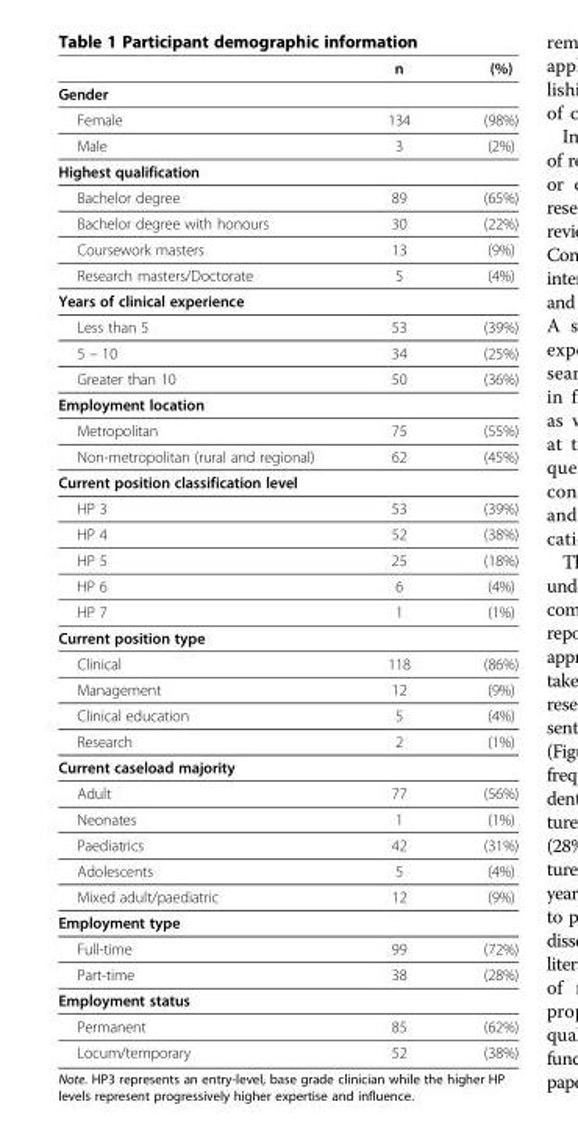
<table><thead><tr><td></td><td>n</td><td>(%)</td></tr></thead><tbody><tr><td colspan="3">Gender</td></tr><tr><td>Female</td><td>134</td><td>(98%)</td></tr><tr><td>Male</td><td>3</td><td>(2%)</td></tr><tr><td colspan="3">Highest qualification</td></tr><tr><td>Bachelor degree</td><td>89</td><td>(65%)</td></tr><tr><td>Bachelor degree with honours</td><td>30</td><td>(22%)</td></tr><tr><td>Coursework masters</td><td>13</td><td>(9%)</td></tr><tr><td>Research masters/Doctorate</td><td>5</td><td>(4%)</td></tr><tr><td colspan="3">Years of clinical experience</td></tr><tr><td>Less than 5</td><td>53</td><td>(39%)</td></tr><tr><td>5 – 10</td><td>34</td><td>(25%)</td></tr><tr><td>Greater than 10</td><td>50</td><td>(36%)</td></tr><tr><td colspan="3">Employment location</td></tr><tr><td>Metropolitan</td><td>75</td><td>(55%)</td></tr><tr><td>Non-metropolitan (rural and regional)</td><td>62</td><td>(45%)</td></tr><tr><td colspan="3">Current position classification level</td></tr><tr><td>HP 3</td><td>53</td><td>(39%)</td></tr><tr><td>HP 4</td><td>52</td><td>(38%)</td></tr><tr><td>HP 5</td><td>25</td><td>(18%)</td></tr><tr><td>HP 6</td><td>6</td><td>(4%)</td></tr><tr><td>HP 7</td><td>1</td><td>(1%)</td></tr><tr><td colspan="3">Current position type</td></tr><tr><td>Clinical</td><td>118</td><td>(86%)</td></tr><tr><td>Management</td><td>12</td><td>(9%)</td></tr><tr><td>Clinical education</td><td>5</td><td>(4%)</td></tr><tr><td>Research</td><td>2</td><td>(1%)</td></tr><tr><td colspan="3">Current caseload majority</td></tr><tr><td>Adult</td><td>77</td><td>(56%)</td></tr><tr><td>Neonates</td><td>1</td><td>(1%)</td></tr><tr><td>Paediatrics</td><td>42</td><td>(31%)</td></tr><tr><td>Adolescents</td><td>5</td><td>(4%)</td></tr><tr><td>Mixed adult/paediatric</td><td>12</td><td>(9%)</td></tr><tr><td colspan="3">Employment type</td></tr><tr><td>Full-time</td><td>99</td><td>(72%)</td></tr><tr><td>Part-time</td><td>38</td><td>(28%)</td></tr><tr><td colspan="3">Employment status</td></tr><tr><td>Permanent</td><td>85</td><td>(62%)</td></tr><tr><td>Locum/temporary</td><td>52</td><td>(38%)</td></tr></tbody></table>